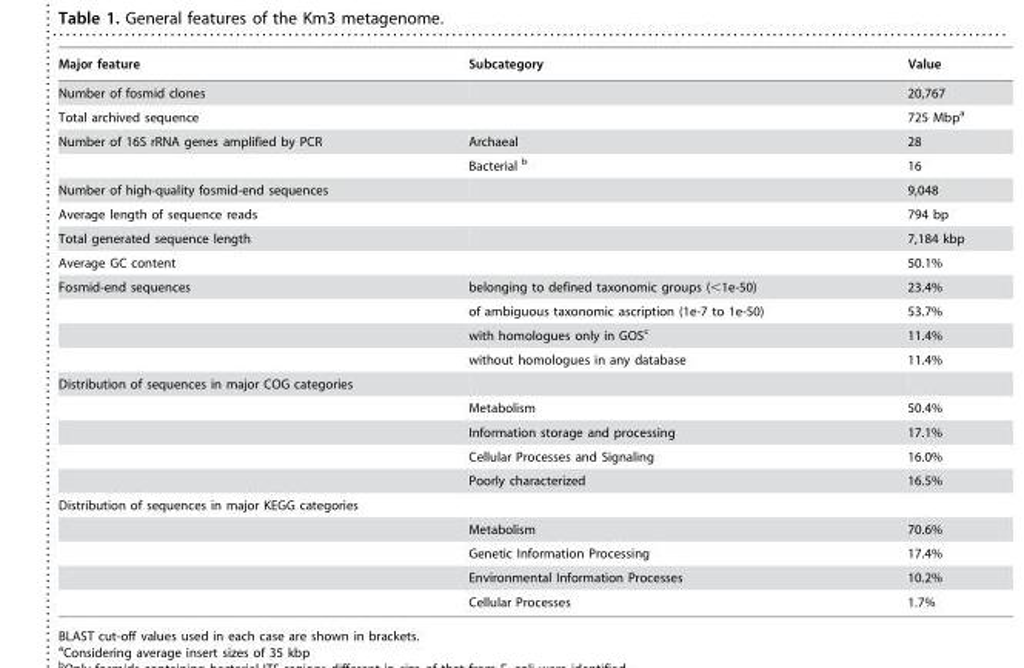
<table><thead><tr><td>Major feature</td><td>Subcategory</td><td>Value</td></tr></thead><tbody><tr><td>Number of fosmid clones</td><td></td><td>20,767</td></tr><tr><td>Total archived sequence</td><td></td><td>725 Mbp<sup>a</sup></td></tr><tr><td rowspan="2">Number of 16S rRNA genes amplified by PCR</td><td>Archaeal</td><td>28</td></tr><tr><td>Bacterial b</td><td>16</td></tr><tr><td>Number of high-quality fosmid-end sequences</td><td></td><td>9,048</td></tr><tr><td>Average length of sequence reads</td><td></td><td>794 bp</td></tr><tr><td>Total generated sequence length</td><td></td><td>7,184 kbp</td></tr><tr><td>Average GC content</td><td></td><td>50.1%</td></tr><tr><td rowspan="4">Fosmid-end sequences</td><td>belonging to defined taxonomic groups (&lt;1e-50)</td><td>23.4%</td></tr><tr><td>of ambiguous taxonomic ascription (1e-7 to 1e-50)</td><td>53.7%</td></tr><tr><td>with homologues only in GOS<sup>c</sup></td><td>11.4%</td></tr><tr><td>without homologues in any database</td><td>11.4%</td></tr><tr><td colspan="3">Distribution of sequences in major COG categories</td></tr><tr><td></td><td>Metabolism</td><td>50.4%</td></tr><tr><td></td><td>Information storage and processing</td><td>17.1%</td></tr><tr><td></td><td>Cellular Processes and Signaling</td><td>16.0%</td></tr><tr><td></td><td>Poorly characterized</td><td>16.5%</td></tr><tr><td colspan="3">Distribution of sequences in major KEGG categories</td></tr><tr><td></td><td>Metabolism</td><td>70.6%</td></tr><tr><td></td><td>Genetic Information Processing</td><td>17.4%</td></tr><tr><td></td><td>Environmental Information Processes</td><td>10.2%</td></tr><tr><td></td><td>Cellular Processes</td><td>1.7%</td></tr></tbody></table>